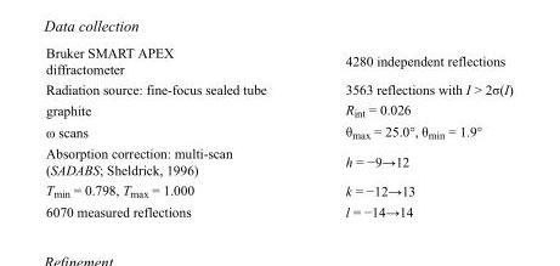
<table><tbody><tr><td>Bruker SMART APEX diffractometer</td><td>4280 independent reflections</td></tr><tr><td>Radiation source: fine-focus sealed tube</td><td>3563 reflections with I &gt; 2σ(I)</td></tr><tr><td>graphite</td><td>R<sub>int</sub> = 0.026</td></tr><tr><td>ω scans</td><td>θ<sub>max</sub> = 25.0°, θ<sub>min</sub> = 1.9°</td></tr><tr><td>Absorption correction: multi-scan (SADABS; Sheldrick, 1996)</td><td>h = −9→12</td></tr><tr><td>T<sub>min</sub> = 0.798, T<sub>max</sub> = 1.000</td><td>k = −12→13</td></tr><tr><td>6070 measured reflections</td><td>l = −14→14</td></tr></tbody></table>